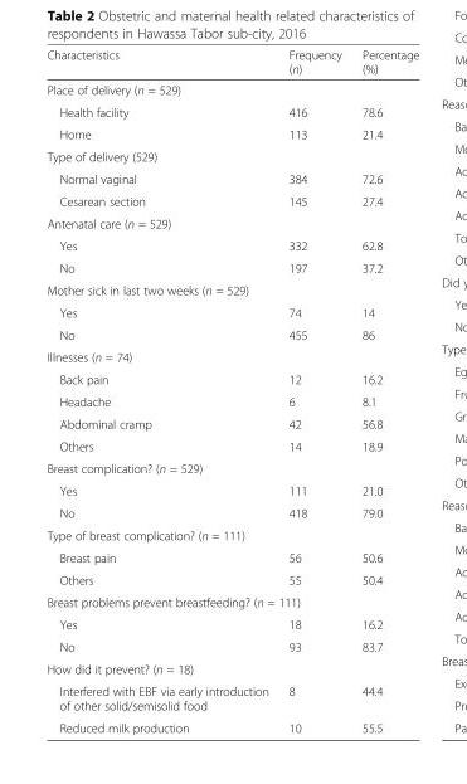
<table><thead><tr><td>Characteristics</td><td>Frequency (n)</td><td>Percentage (%)</td></tr></thead><tbody><tr><td colspan="3">Place of delivery (n = 529)</td></tr><tr><td>Health facility</td><td>416</td><td>78.6</td></tr><tr><td>Home</td><td>113</td><td>21.4</td></tr><tr><td colspan="3">Type of delivery (529)</td></tr><tr><td>Normal vaginal</td><td>384</td><td>72.6</td></tr><tr><td>Cesarean section</td><td>145</td><td>27.4</td></tr><tr><td colspan="3">Antenatal care (n = 529)</td></tr><tr><td>Yes</td><td>332</td><td>62.8</td></tr><tr><td>No</td><td>197</td><td>37.2</td></tr><tr><td colspan="3">Mother sick in last two weeks (n = 529)</td></tr><tr><td>Yes</td><td>74</td><td>14</td></tr><tr><td>No</td><td>455</td><td>86</td></tr><tr><td colspan="3">Illnesses (n = 74)</td></tr><tr><td>Back pain</td><td>12</td><td>16.2</td></tr><tr><td>Headache</td><td>6</td><td>8.1</td></tr><tr><td>Abdominal cramp</td><td>42</td><td>56.8</td></tr><tr><td>Others</td><td>14</td><td>18.9</td></tr><tr><td colspan="3">Breast complication? (n = 529)</td></tr><tr><td>Yes</td><td>111</td><td>21.0</td></tr><tr><td>No</td><td>418</td><td>79.0</td></tr><tr><td colspan="3">Type of breast complication? (n = 111)</td></tr><tr><td>Breast pain</td><td>56</td><td>50.6</td></tr><tr><td>Others</td><td>55</td><td>50.4</td></tr><tr><td colspan="3">Breast problems prevent breastfeeding? (n = 111)</td></tr><tr><td>Yes</td><td>18</td><td>16.2</td></tr><tr><td>No</td><td>93</td><td>83.7</td></tr><tr><td colspan="3">How did it prevent? (n = 18)</td></tr><tr><td>Interfered with EBF via early introduction of other solid/semisolid food</td><td>8</td><td>44.4</td></tr><tr><td>Reduced milk production</td><td>10</td><td>55.5</td></tr></tbody></table>